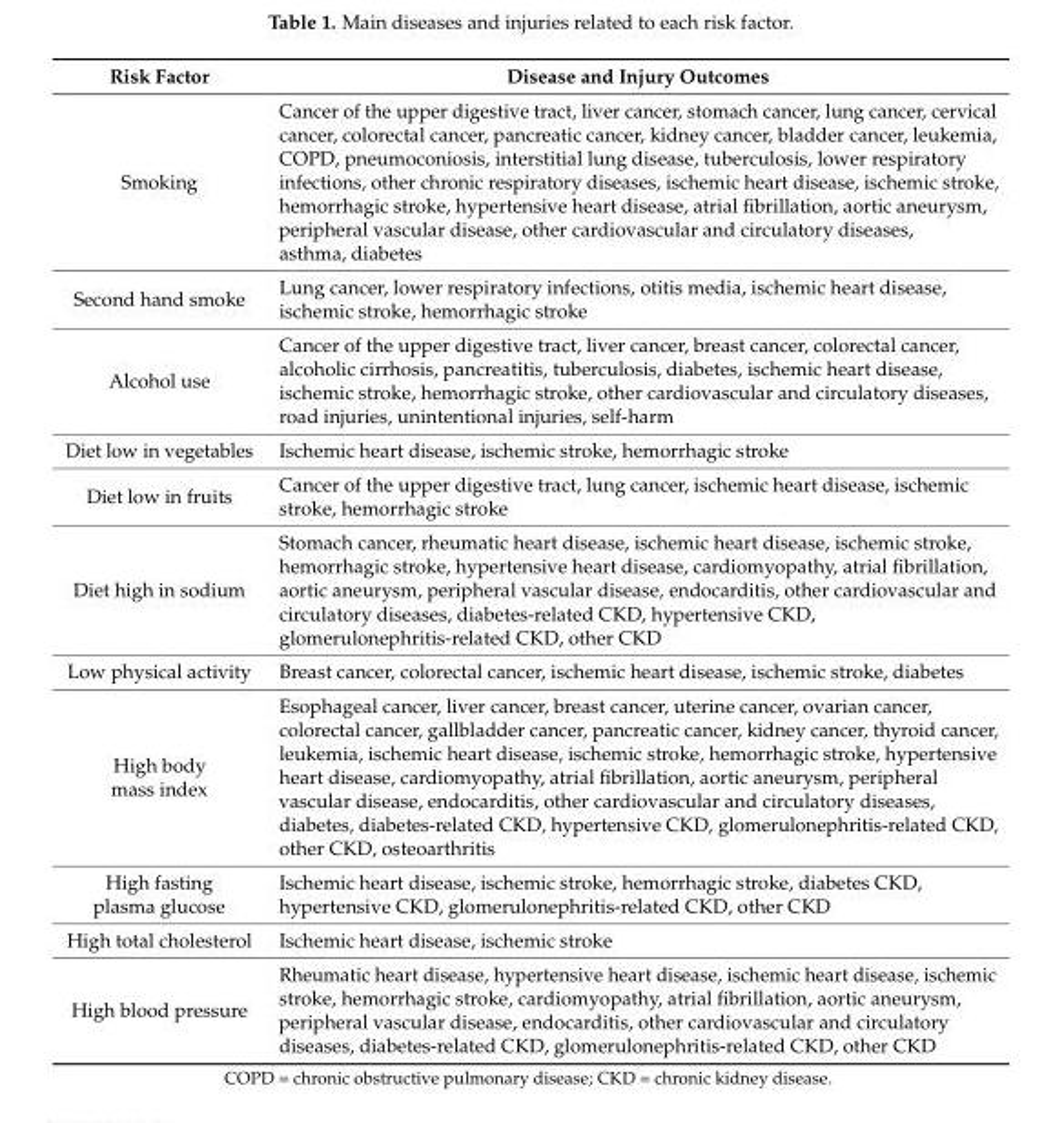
<table><thead><tr><td>Risk Factor</td><td>Disease and Injury Outcomes</td></tr></thead><tbody><tr><td>Smoking</td><td>Cancer of the upper digestive tract, liver cancer, stomach cancer, lung cancer, cervical cancer, colorectal cancer, pancreatic cancer, kidney cancer, bladder cancer, leukemia, COPD, pneumoconiosis, interstitial lung disease, tuberculosis, lower respiratory infections, other chronic respiratory diseases, ischemic heart disease, ischemic stroke, hemorrhagic stroke, hypertensive heart disease, atrial fibrillation, aortic aneurysm, peripheral vascular disease, other cardiovascular and circulatory diseases, asthma, diabetes</td></tr><tr><td>Second hand smoke</td><td>Lung cancer, lower respiratory infections, otitis media, ischemic heart disease, ischemic stroke, hemorrhagic stroke</td></tr><tr><td>Alcohol use</td><td>Cancer of the upper digestive tract, liver cancer, breast cancer, colorectal cancer, alcoholic cirrhosis, pancreatitis, tuberculosis, diabetes, ischemic heart disease, ischemic stroke, hemorrhagic stroke, other cardiovascular and circulatory diseases, road injuries, unintentional injuries, self-harm</td></tr><tr><td>Diet low in vegetables</td><td>Ischemic heart disease, ischemic stroke, hemorrhagic stroke</td></tr><tr><td>Diet low in fruits</td><td>Cancer of the upper digestive tract, lung cancer, ischemic heart disease, ischemic stroke, hemorrhagic stroke</td></tr><tr><td>Diet high in sodium</td><td>Stomach cancer, rheumatic heart disease, ischemic heart disease, ischemic stroke, hemorrhagic stroke, hypertensive heart disease, cardiomyopathy, atrial fibrillation, aortic aneurysm, peripheral vascular disease, endocarditis, other cardiovascular and circulatory diseases, diabetes-related CKD, hypertensive CKD, glomerulonephritis-related CKD, other CKD</td></tr><tr><td>Low physical activity</td><td>Breast cancer, colorectal cancer, ischemic heart disease, ischemic stroke, diabetes</td></tr><tr><td>High body mass index</td><td>Esophageal cancer, liver cancer, breast cancer, uterine cancer, ovarian cancer, colorectal cancer, gallbladder cancer, pancreatic cancer, kidney cancer, thyroid cancer, leukemia, ischemic heart disease, ischemic stroke, hemorrhagic stroke, hypertensive heart disease, cardiomyopathy, atrial fibrillation, aortic aneurysm, peripheral vascular disease, endocarditis, other cardiovascular and circulatory diseases, diabetes, diabetes-related CKD, hypertensive CKD, glomerulonephritis-related CKD, other CKD, osteoarthritis</td></tr><tr><td>High fasting plasma glucose</td><td>Ischemic heart disease, ischemic stroke, hemorrhagic stroke, diabetes CKD, hypertensive CKD, glomerulonephritis-related CKD, other CKD</td></tr><tr><td>High total cholesterol</td><td>Ischemic heart disease, ischemic stroke</td></tr><tr><td>High blood pressure</td><td>Rheumatic heart disease, hypertensive heart disease, ischemic heart disease, ischemic stroke, hemorrhagic stroke, cardiomyopathy, atrial fibrillation, aortic aneurysm, peripheral vascular disease, endocarditis, other cardiovascular and circulatory diseases, diabetes-related CKD, glomerulonephritis-related CKD, other CKD</td></tr></tbody></table>